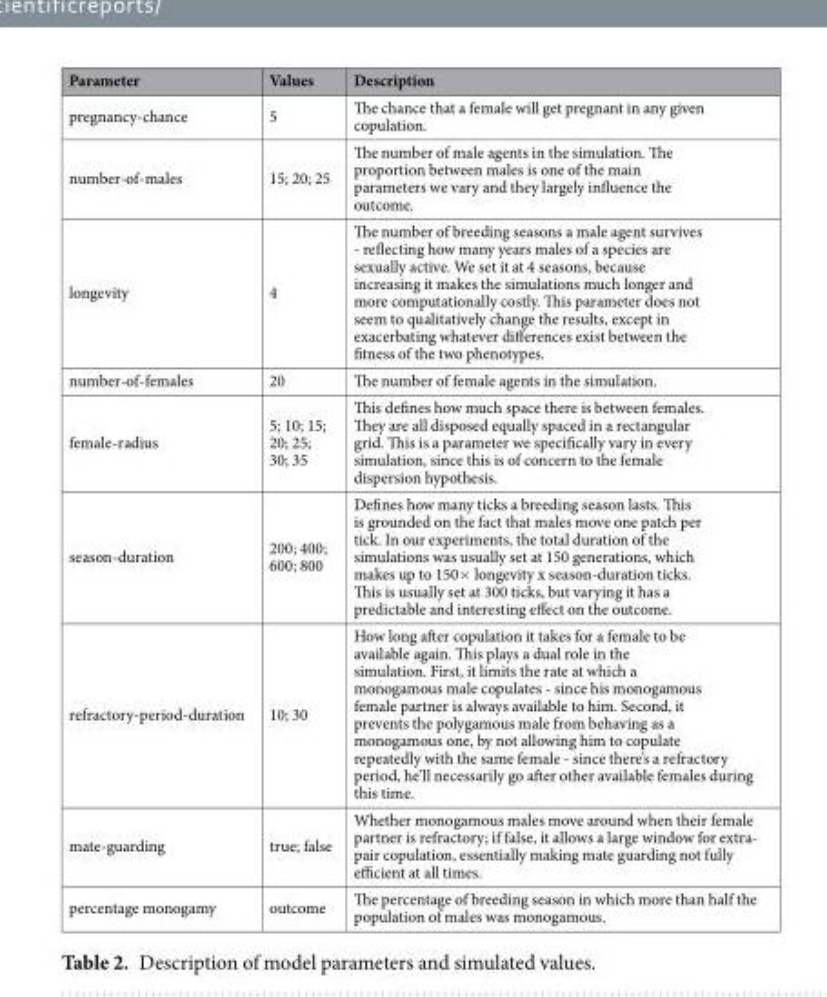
<table><thead><tr><td>Parameter</td><td>Values</td><td>Description</td></tr></thead><tbody><tr><td>pregnancy-chance</td><td>5</td><td>The chance that a female will get pregnant in any given copulation.</td></tr><tr><td>number-of-males</td><td>15; 20; 25</td><td>The number of male agents in the simulation. The proportion between males is one of the main parameters we vary and they largely influence the outcome.</td></tr><tr><td>longevity</td><td>4</td><td>The number of breeding seasons a male agent survives - reflecting how many years males of a species are sexually active. We set it at 4 seasons, because increasing it makes the simulations much longer and more computationally costly. This parameter does not seem to qualitatively change the results, except in exacerbating whatever differences exist between the fitness of the two phenotypes.</td></tr><tr><td>number-of-females</td><td>20</td><td>The number of female agents in the simulation.</td></tr><tr><td>female-radius</td><td>5; 10; 15; 20; 25; 30; 35</td><td>This defines how much space there is between females. They are all disposed equally spaced in a rectangular grid. This is a parameter we specifically vary in every simulation, since this is of concern to the female dispersion hypothesis.</td></tr><tr><td>season-duration</td><td>200; 400; 600; 800</td><td>Defines how many ticks a breeding season lasts. This is grounded on the fact that males move one patch per tick. In our experiments, the total duration of the simulations was usually set at 150 generations, which makes up to 150× longevity x season-duration ticks. This is usually set at 300 ticks, but varying it has a predictable and interesting effect on the outcome.</td></tr><tr><td>refractory-period-duration</td><td>10; 30</td><td>How long after copulation it takes for a female to be available again. This plays a dual role in the simulation. First, it limits the rate at which a monogamous male copulates - since his monogamous female partner is always available to him. Second, it prevents the polygamous male from behaving as a monogamous one, by not allowing him to copulate repeatedly with the same female - since there’s a refractory period, he’ll necessarily go after other available females during this time.</td></tr><tr><td>mate-guarding</td><td>true; false</td><td>Whether monogamous males move around when their female partner is refractory; if false, it allows a large window for extra- pair copulation, essentially making mate guarding not fully efficient at all times.</td></tr><tr><td>percentage monogamy</td><td>outcome</td><td>The percentage of breeding season in which more than half the population of males was monogamous.</td></tr></tbody></table>